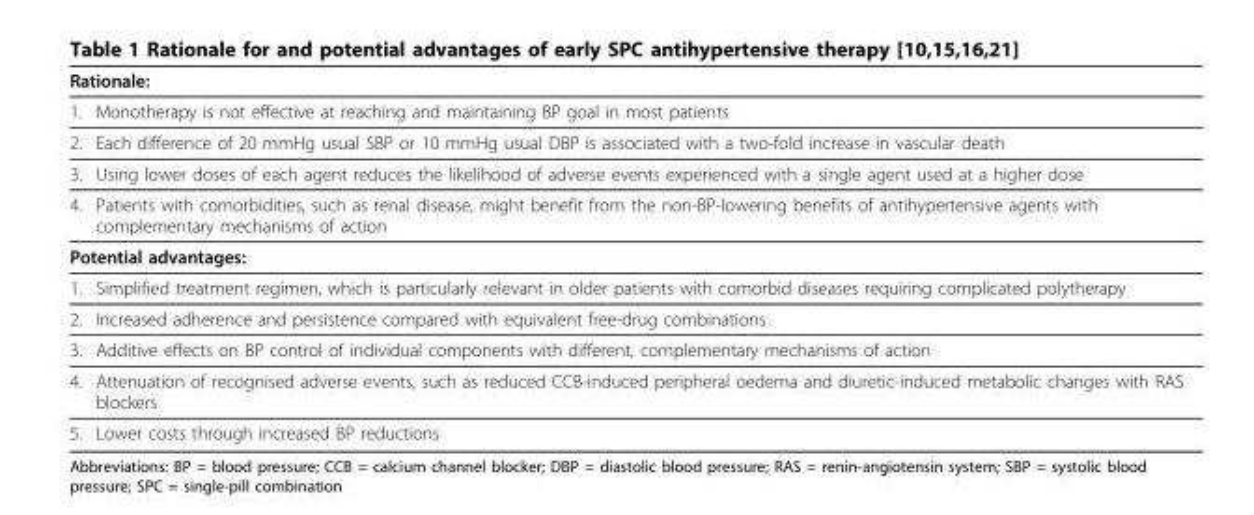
<table><thead><tr><td colspan="2">Rationale:</td></tr><tr><td>1.</td><td>Monotherapy is not effective at reaching and maintaining BP goal in most patients</td></tr></thead><tbody><tr><td>2.</td><td>Each difference of 20 mmHg usual SBP or 10 mmHg usual DBP is associated with a two-fold increase in vascular death</td></tr><tr><td>3.</td><td>Using lower doses of each agent reduces the likelihood of adverse events experienced with a single agent used at a higher dose</td></tr><tr><td>4.</td><td>Patients with comorbidities, such as renal disease, might benefit from the non-BP-lowering benefits of antihypertensive agents with complementary mechanisms of action</td></tr><tr><td colspan="2">Potential advantages:</td></tr><tr><td>1.</td><td>Simplified treatment regimen, which is particularly relevant in older patients with comorbid diseases requiring complicated polytherapy</td></tr><tr><td>2.</td><td>Increased adherence and persistence compared with equivalent free-drug combinations</td></tr><tr><td>3.</td><td>Additive effects on BP control of individual components with different, complementary mechanisms of action</td></tr><tr><td>4.</td><td>Attenuation of recognised adverse events, such as reduced CCB-induced peripheral oedema and diuretic-induced metabolic changes with RAS blockers</td></tr><tr><td>5.</td><td>Lower costs through increased BP reductions</td></tr></tbody></table>